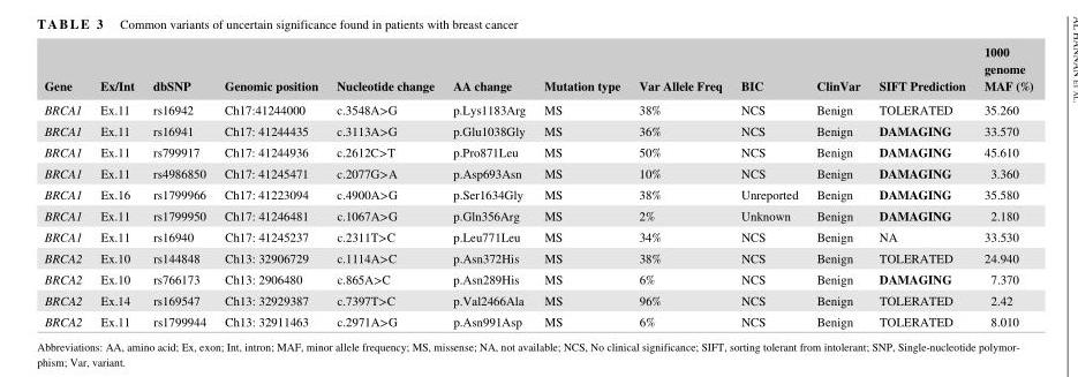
<table><thead><tr><td>Gene</td><td>Ex/Int</td><td>dbSNP</td><td>Genomic position</td><td>Nucleotide change</td><td>AA change</td><td>Mutation type</td><td>Var Allele Freq</td><td>BIC</td><td>ClinVar</td><td>SIFT Prediction</td><td>1000 genome MAF (%)</td></tr></thead><tbody><tr><td>BRCA1</td><td>Ex.11</td><td>rs16942</td><td>Ch17:41244000</td><td>c.3548A&gt;G</td><td>p.Lys1183Arg</td><td>MS</td><td>38%</td><td>NCS</td><td>Benign</td><td>TOLERATED</td><td>35.260</td></tr><tr><td>BRCA1</td><td>Ex.11</td><td>rs16941</td><td>Ch17: 41244435</td><td>c.3113A&gt;G</td><td>p.Glu1038Gly</td><td>MS</td><td>36%</td><td>NCS</td><td>Benign</td><td>DAMAGING</td><td>33.570</td></tr><tr><td>BRCA1</td><td>Ex.11</td><td>rs799917</td><td>Ch17: 41244936</td><td>c.2612C&gt;T</td><td>p.Pro871Leu</td><td>MS</td><td>50%</td><td>NCS</td><td>Benign</td><td>DAMAGING</td><td>45.610</td></tr><tr><td>BRCA1</td><td>Ex.11</td><td>rs4986850</td><td>Ch17: 41245471</td><td>c.2077G&gt;A</td><td>p.Asp693Asn</td><td>MS</td><td>10%</td><td>NCS</td><td>Benign</td><td>DAMAGING</td><td>3.360</td></tr><tr><td>BRCA1</td><td>Ex.16</td><td>rs1799966</td><td>Ch17: 41223094</td><td>c.4900A&gt;G</td><td>p.Ser1634Gly</td><td>MS</td><td>38%</td><td>Unreported</td><td>Benign</td><td>DAMAGING</td><td>35.580</td></tr><tr><td>BRCA1</td><td>Ex.11</td><td>rs1799950</td><td>Ch17: 41246481</td><td>c.1067A&gt;G</td><td>p.Gln356Arg</td><td>MS</td><td>2%</td><td>Unknown</td><td>Benign</td><td>DAMAGING</td><td>2.180</td></tr><tr><td>BRCA1</td><td>Ex.11</td><td>rs16940</td><td>Ch17: 41245237</td><td>c.2311T&gt;C</td><td>p.Leu771Leu</td><td>MS</td><td>34%</td><td>NCS</td><td>Benign</td><td>NA</td><td>33.530</td></tr><tr><td>BRCA2</td><td>Ex.10</td><td>rs144848</td><td>Ch13: 32906729</td><td>c.1114A&gt;C</td><td>p.Asn372His</td><td>MS</td><td>38%</td><td>NCS</td><td>Benign</td><td>TOLERATED</td><td>24.940</td></tr><tr><td>BRCA2</td><td>Ex.10</td><td>rs766173</td><td>Ch13: 2906480</td><td>c.865A&gt;C</td><td>p.Asn289His</td><td>MS</td><td>6%</td><td>NCS</td><td>Benign</td><td>DAMAGING</td><td>7.370</td></tr><tr><td>BRCA2</td><td>Ex.14</td><td>rs169547</td><td>Ch13: 32929387</td><td>c.7397T&gt;C</td><td>p.Val2466Ala</td><td>MS</td><td>96%</td><td>NCS</td><td>Benign</td><td>TOLERATED</td><td>2.42</td></tr><tr><td>BRCA2</td><td>Ex.11</td><td>rs1799944</td><td>Ch13: 32911463</td><td>c.2971A&gt;G</td><td>p.Asn991Asp</td><td>MS</td><td>6%</td><td>NCS</td><td>Benign</td><td>TOLERATED</td><td>8.010</td></tr></tbody></table>